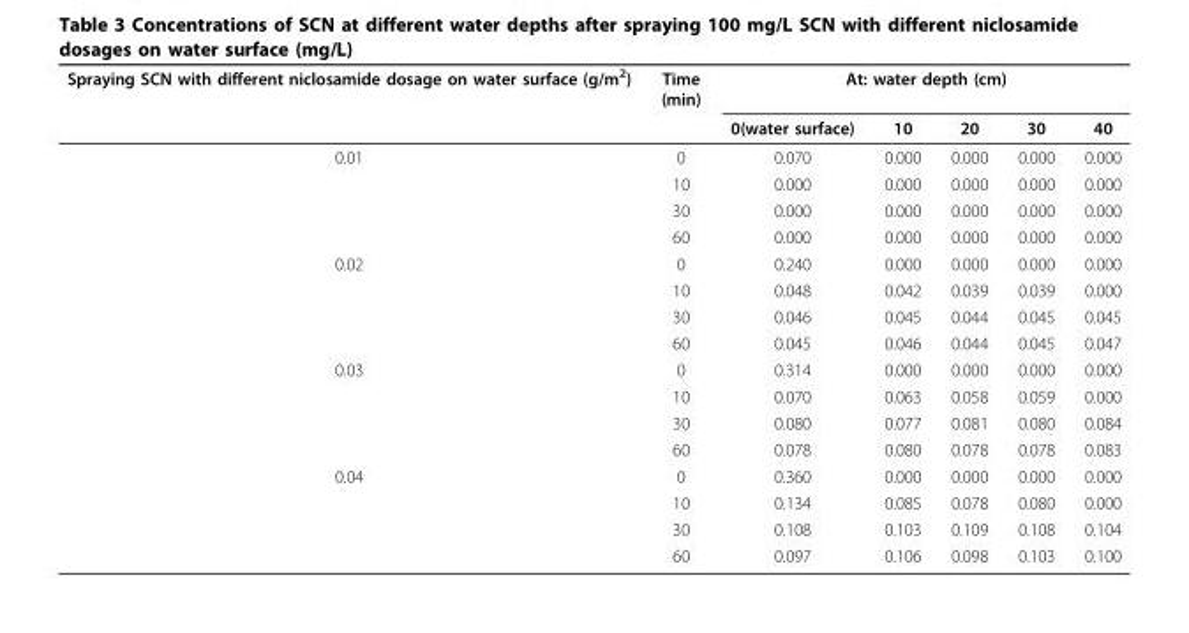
<table><thead><tr><td rowspan="2">Spraying SCN with different niclosamide dosage on water surface (g/m<sup>2</sup>)</td><td rowspan="2">Time (min)</td><td colspan="5">At: water depth (cm)</td></tr><tr><td>0(water surface)</td><td>10</td><td>20</td><td>30</td><td>40</td></tr></thead><tbody><tr><td rowspan="4">0.01</td><td>0</td><td>0.070</td><td>0.000</td><td>0.000</td><td>0.000</td><td>0.000</td></tr><tr><td>10</td><td>0.000</td><td>0.000</td><td>0.000</td><td>0.000</td><td>0.000</td></tr><tr><td>30</td><td>0.000</td><td>0.000</td><td>0.000</td><td>0.000</td><td>0.000</td></tr><tr><td>60</td><td>0.000</td><td>0.000</td><td>0.000</td><td>0.000</td><td>0.000</td></tr><tr><td rowspan="4">0.02</td><td>0</td><td>0.240</td><td>0.000</td><td>0.000</td><td>0.000</td><td>0.000</td></tr><tr><td>10</td><td>0.048</td><td>0.042</td><td>0.039</td><td>0.039</td><td>0.000</td></tr><tr><td>30</td><td>0.046</td><td>0.045</td><td>0.044</td><td>0.045</td><td>0.045</td></tr><tr><td>60</td><td>0.045</td><td>0.046</td><td>0.044</td><td>0.045</td><td>0.047</td></tr><tr><td rowspan="4">0.03</td><td>0</td><td>0.314</td><td>0.000</td><td>0.000</td><td>0.000</td><td>0.000</td></tr><tr><td>10</td><td>0.070</td><td>0.063</td><td>0.058</td><td>0.059</td><td>0.000</td></tr><tr><td>30</td><td>0.080</td><td>0.077</td><td>0.081</td><td>0.080</td><td>0.084</td></tr><tr><td>60</td><td>0.078</td><td>0.080</td><td>0.078</td><td>0.078</td><td>0.083</td></tr><tr><td rowspan="4">0.04</td><td>0</td><td>0.360</td><td>0.000</td><td>0.000</td><td>0.000</td><td>0.000</td></tr><tr><td>10</td><td>0.134</td><td>0.085</td><td>0.078</td><td>0.080</td><td>0.000</td></tr><tr><td>30</td><td>0.108</td><td>0.103</td><td>0.109</td><td>0.108</td><td>0.104</td></tr><tr><td>60</td><td>0.097</td><td>0.106</td><td>0.098</td><td>0.103</td><td>0.100</td></tr></tbody></table>